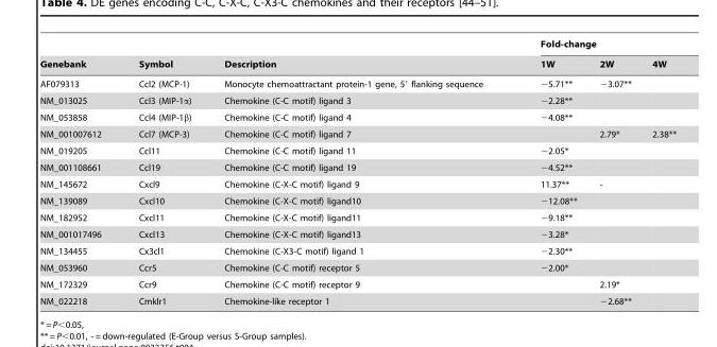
<table><thead><tr><td rowspan="2">Genebank</td><td rowspan="2">Symbol</td><td rowspan="2">Description</td><td colspan="3">Fold-change</td></tr><tr><td>1W</td><td>2W</td><td>4W</td></tr></thead><tbody><tr><td>AF079313</td><td>Ccl2 (MCP-1)</td><td>Monocyte chemoattractant protein-1 gene, 5′ flanking sequence</td><td>−5.71**</td><td>−3.07**</td><td></td></tr><tr><td>NM_013025</td><td>Ccl3 (MIP-1α)</td><td>Chemokine (C-C motif) ligand 3</td><td>−2.28**</td><td></td><td></td></tr><tr><td>NM_053858</td><td>Ccl4 (MIP-1β)</td><td>Chemokine (C-C motif) ligand 4</td><td>−4.08**</td><td></td><td></td></tr><tr><td>NM_001007612</td><td>Ccl7 (MCP-3)</td><td>Chemokine (C-C motif) ligand 7</td><td></td><td>2.79*</td><td>2.38**</td></tr><tr><td>NM_019205</td><td>Ccl11</td><td>Chemokine (C-C motif) ligand 11</td><td>−2.05*</td><td></td><td></td></tr><tr><td>NM_001108661</td><td>Ccl19</td><td>Chemokine (C-C motif) ligand 19</td><td>−4.52**</td><td></td><td></td></tr><tr><td>NM_145672</td><td>Cxcl9</td><td>Chemokine (C-X-C motif) ligand 9</td><td>11.37**</td><td>-</td><td></td></tr><tr><td>NM_139089</td><td>Cxcl10</td><td>Chemokine (C-X-C motif) ligand10</td><td>−12.08**</td><td></td><td></td></tr><tr><td>NM_182952</td><td>Cxcl11</td><td>Chemokine (C-X-C motif) ligand11</td><td>−9.18**</td><td></td><td></td></tr><tr><td>NM_001017496</td><td>Cxcl13</td><td>Chemokine (C-X-C motif) ligand13</td><td>−3.28*</td><td></td><td></td></tr><tr><td>NM_134455</td><td>Cx3cl1</td><td>Chemokine (C-X3-C motif) ligand 1</td><td>−2.30**</td><td></td><td></td></tr><tr><td>NM_053960</td><td>Ccr5</td><td>Chemokine (C-C motif) receptor 5</td><td>−2.00*</td><td></td><td></td></tr><tr><td>NM_172329</td><td>Ccr9</td><td>Chemokine (C-C motif) receptor 9</td><td></td><td>2.19*</td><td></td></tr><tr><td>NM_022218</td><td>Cmklr1</td><td>Chemokine-like receptor 1</td><td></td><td>−2.68**</td><td></td></tr></tbody></table>